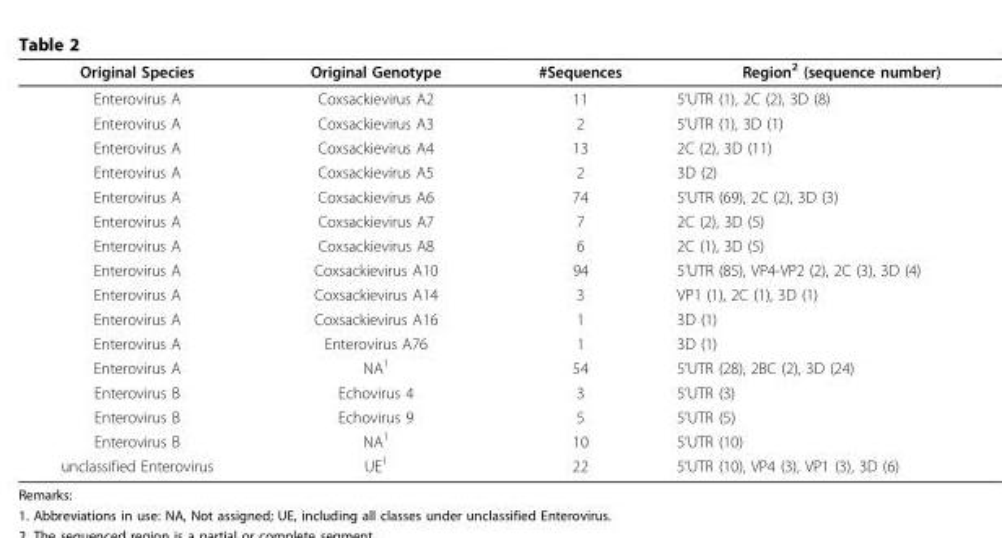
<table><thead><tr><td>Original Species</td><td>Original Genotype</td><td>#Sequences</td><td>Region<sup>2</sup> (sequence number)</td></tr></thead><tbody><tr><td>Enterovirus A</td><td>Coxsackievirus A2</td><td>11</td><td>5’UTR (1), 2C (2), 3D (8)</td></tr><tr><td>Enterovirus A</td><td>Coxsackievirus A3</td><td>2</td><td>5’UTR (1), 3D (1)</td></tr><tr><td>Enterovirus A</td><td>Coxsackievirus A4</td><td>13</td><td>2C (2), 3D (11)</td></tr><tr><td>Enterovirus A</td><td>Coxsackievirus A5</td><td>2</td><td>3D (2)</td></tr><tr><td>Enterovirus A</td><td>Coxsackievirus A6</td><td>74</td><td>5’UTR (69), 2C (2), 3D (3)</td></tr><tr><td>Enterovirus A</td><td>Coxsackievirus A7</td><td>7</td><td>2C (2), 3D (5)</td></tr><tr><td>Enterovirus A</td><td>Coxsackievirus A8</td><td>6</td><td>2C (1), 3D (5)</td></tr><tr><td>Enterovirus A</td><td>Coxsackievirus A10</td><td>94</td><td>5’UTR (85), VP4-VP2 (2), 2C (3), 3D (4)</td></tr><tr><td>Enterovirus A</td><td>Coxsackievirus A14</td><td>3</td><td>VP1 (1), 2C (1), 3D (1)</td></tr><tr><td>Enterovirus A</td><td>Coxsackievirus A16</td><td>1</td><td>3D (1)</td></tr><tr><td>Enterovirus A</td><td>Enterovirus A76</td><td>1</td><td>3D (1)</td></tr><tr><td>Enterovirus A</td><td>NA<sup>1</sup></td><td>54</td><td>5’UTR (28), 2BC (2), 3D (24)</td></tr><tr><td>Enterovirus B</td><td>Echovirus 4</td><td>3</td><td>5’UTR (3)</td></tr><tr><td>Enterovirus B</td><td>Echovirus 9</td><td>5</td><td>5’UTR (5)</td></tr><tr><td>Enterovirus B</td><td>NA<sup>1</sup></td><td>10</td><td>5’UTR (10)</td></tr><tr><td>unclassified Enterovirus</td><td>UE<sup>1</sup></td><td>22</td><td>5’UTR (10), VP4 (3), VP1 (3), 3D (6)</td></tr></tbody></table>